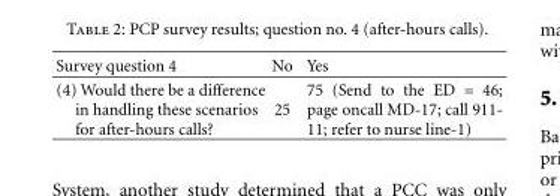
<table><thead><tr><td>Survey question 4</td><td>No</td><td>Yes</td></tr></thead><tbody><tr><td>(4) Would there be a difference in handling these scenarios for after-hours calls?</td><td>25</td><td>75 (Send to the ED = 46; page oncall MD-17; call 911- 11; refer to nurse line-1)</td></tr></tbody></table>